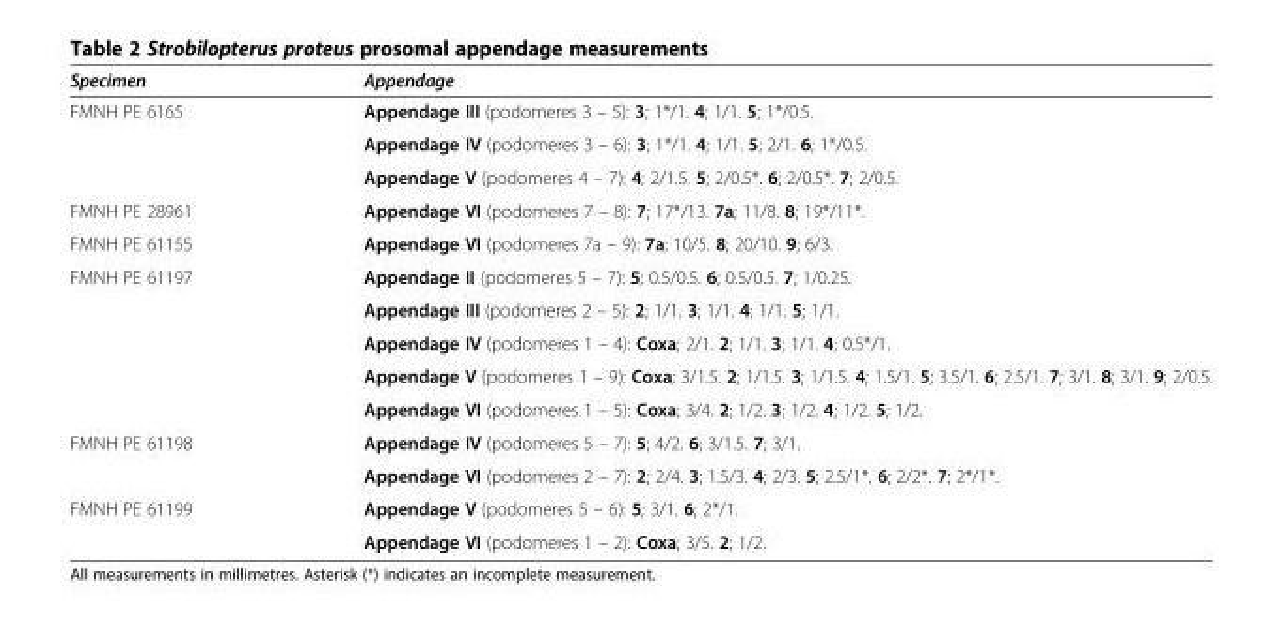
<table><thead><tr><td>Specimen</td><td>Appendage</td></tr></thead><tbody><tr><td rowspan="3">FMNH PE 6165</td><td>Appendage III (podomeres 3 – 5): 3; 1*/1. 4; 1/1. 5; 1*/0.5.</td></tr><tr><td>Appendage IV (podomeres 3 – 6): 3; 1*/1. 4; 1/1. 5; 2/1. 6; 1*/0.5.</td></tr><tr><td>Appendage V (podomeres 4 – 7): 4; 2/1.5. 5; 2/0.5*. 6; 2/0.5*. 7; 2/0.5.</td></tr><tr><td>FMNH PE 28961</td><td>Appendage VI (podomeres 7 – 8): 7; 17*/13. 7a; 11/8. 8; 19*/11*.</td></tr><tr><td>FMNH PE 61155</td><td>Appendage VI (podomeres 7a – 9): 7a; 10/5. 8; 20/10. 9; 6/3.</td></tr><tr><td rowspan="5">FMNH PE 61197</td><td>Appendage II (podomeres 5 – 7): 5; 0.5/0.5. 6; 0.5/0.5. 7; 1/0.25.</td></tr><tr><td>Appendage III (podomeres 2 – 5): 2; 1/1. 3; 1/1. 4; 1/1. 5; 1/1.</td></tr><tr><td>Appendage IV (podomeres 1 – 4): Coxa; 2/1. 2; 1/1. 3; 1/1. 4; 0.5*/1.</td></tr><tr><td>Appendage V (podomeres 1 – 9): Coxa; 3/1.5. 2; 1/1.5. 3; 1/1.5. 4; 1.5/1. 5; 3.5/1. 6; 2.5/1. 7; 3/1. 8; 3/1. 9; 2/0.5.</td></tr><tr><td>Appendage VI (podomeres 1 – 5): Coxa; 3/4. 2; 1/2. 3; 1/2. 4; 1/2. 5; 1/2.</td></tr><tr><td rowspan="2">FMNH PE 61198</td><td>Appendage IV (podomeres 5 – 7): 5; 4/2. 6; 3/1.5. 7; 3/1.</td></tr><tr><td>Appendage VI (podomeres 2 – 7): 2; 2/4. 3; 1.5/3. 4; 2/3. 5; 2.5/1*. 6; 2/2*. 7; 2*/1*.</td></tr><tr><td rowspan="2">FMNH PE 61199</td><td>Appendage V (podomeres 5 – 6): 5; 3/1. 6; 2*/1.</td></tr><tr><td>Appendage VI (podomeres 1 – 2): Coxa; 3/5. 2; 1/2.</td></tr></tbody></table>